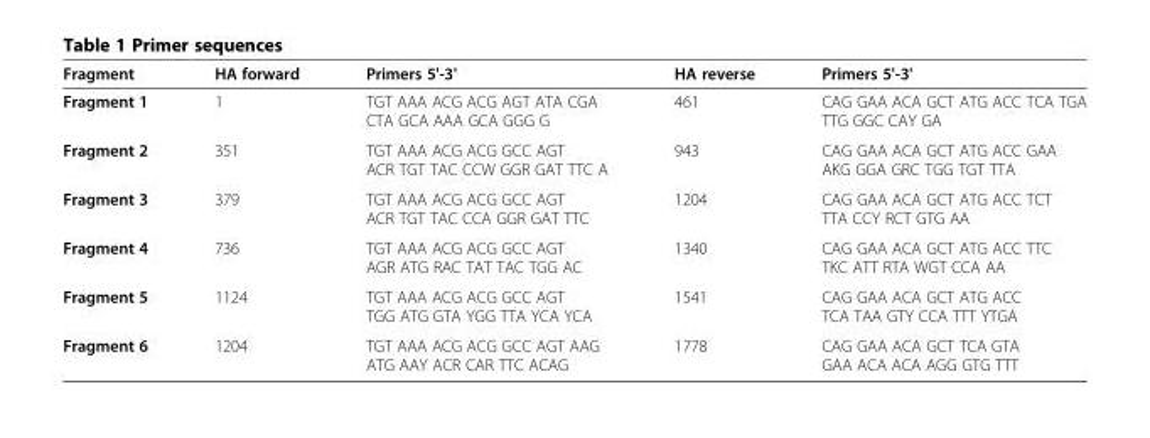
<table><thead><tr><td>Fragment</td><td>HA forward</td><td>Primers 5&#x27;-3&#x27;</td><td>HA reverse</td><td>Primers 5&#x27;-3&#x27;</td></tr></thead><tbody><tr><td>Fragment 1</td><td>1</td><td>TGT AAA ACG ACG AGT ATA CGA CTA GCA AAA GCA GGG G</td><td>461</td><td>CAG GAA ACA GCT ATG ACC TCA TGA TTG GGC CAY GA</td></tr><tr><td>Fragment 2</td><td>351</td><td>TGT AAA ACG ACG GCC AGT ACR TGT TAC CCW GGR GAT TTC A</td><td>943</td><td>CAG GAA ACA GCT ATG ACC GAA AKG GGA GRC TGG TGT TTA</td></tr><tr><td>Fragment 3</td><td>379</td><td>TGT AAA ACG ACG GCC AGT ACR TGT TAC CCA GGR GAT TTC</td><td>1204</td><td>CAG GAA ACA GCT ATG ACC TCT TTA CCY RCT GTG AA</td></tr><tr><td>Fragment 4</td><td>736</td><td>TGT AAA ACG ACG GCC AGT AGR ATG RAC TAT TAC TGG AC</td><td>1340</td><td>CAG GAA ACA GCT ATG ACC TTC TKC ATT RTA WGT CCA AA</td></tr><tr><td>Fragment 5</td><td>1124</td><td>TGT AAA ACG ACG GCC AGT TGG ATG GTA YGG TTA YCA YCA</td><td>1541</td><td>CAG GAA ACA GCT ATG ACC TCA TAA GTY CCA TTT YTGA</td></tr><tr><td>Fragment 6</td><td>1204</td><td>TGT AAA ACG ACG GCC AGT AAG ATG AAY ACR CAR TTC ACAG</td><td>1778</td><td>CAG GAA ACA GCT TCA GTA GAA ACA ACA AGG GTG TTT</td></tr></tbody></table>